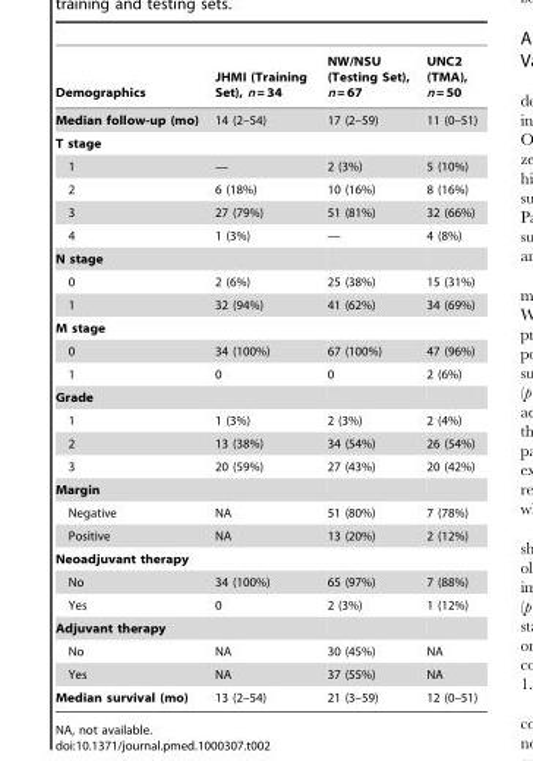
<table><thead><tr><td>Demographics</td><td>JHMI (Training Set), n = 34</td><td>NW/NSU (Testing Set), n = 67</td><td>UNC2 (TMA), n = 50</td></tr></thead><tbody><tr><td>Median follow-up (mo)</td><td>14 (2–54)</td><td>17 (2–59)</td><td>11 (0–51)</td></tr><tr><td colspan="4">T stage</td></tr><tr><td>1</td><td>—</td><td>2 (3%)</td><td>5 (10%)</td></tr><tr><td>2</td><td>6 (18%)</td><td>10 (16%)</td><td>8 (16%)</td></tr><tr><td>3</td><td>27 (79%)</td><td>51 (81%)</td><td>32 (66%)</td></tr><tr><td>4</td><td>1 (3%)</td><td>—</td><td>4 (8%)</td></tr><tr><td colspan="4">N stage</td></tr><tr><td>0</td><td>2 (6%)</td><td>25 (38%)</td><td>15 (31%)</td></tr><tr><td>1</td><td>32 (94%)</td><td>41 (62%)</td><td>34 (69%)</td></tr><tr><td colspan="4">M stage</td></tr><tr><td>0</td><td>34 (100%)</td><td>67 (100%)</td><td>47 (96%)</td></tr><tr><td>1</td><td>0</td><td>0</td><td>2 (6%)</td></tr><tr><td colspan="4">Grade</td></tr><tr><td>1</td><td>1 (3%)</td><td>2 (3%)</td><td>2 (4%)</td></tr><tr><td>2</td><td>13 (38%)</td><td>34 (54%)</td><td>26 (54%)</td></tr><tr><td>3</td><td>20 (59%)</td><td>27 (43%)</td><td>20 (42%)</td></tr><tr><td colspan="4">Margin</td></tr><tr><td>Negative</td><td>NA</td><td>51 (80%)</td><td>7 (78%)</td></tr><tr><td>Positive</td><td>NA</td><td>13 (20%)</td><td>2 (12%)</td></tr><tr><td colspan="4">Neoadjuvant therapy</td></tr><tr><td>No</td><td>34 (100%)</td><td>65 (97%)</td><td>7 (88%)</td></tr><tr><td>Yes</td><td>0</td><td>2 (3%)</td><td>1 (12%)</td></tr><tr><td colspan="4">Adjuvant therapy</td></tr><tr><td>No</td><td>NA</td><td>30 (45%)</td><td>NA</td></tr><tr><td>Yes</td><td>NA</td><td>37 (55%)</td><td>NA</td></tr><tr><td>Median survival (mo)</td><td>13 (2–54)</td><td>21 (3–59)</td><td>12 (0–51)</td></tr></tbody></table>